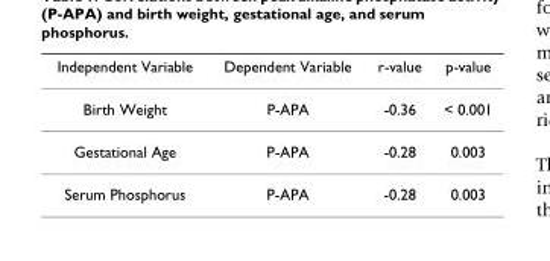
<table><thead><tr><td>Independent Variable</td><td>Dependent Variable</td><td>r-value</td><td>p-value</td></tr></thead><tbody><tr><td>Birth Weight</td><td>P-APA</td><td>-0.36</td><td>&lt; 0.001</td></tr><tr><td>Gestational Age</td><td>P-APA</td><td>-0.28</td><td>0.003</td></tr><tr><td>Serum Phosphorus</td><td>P-APA</td><td>-0.28</td><td>0.003</td></tr></tbody></table>